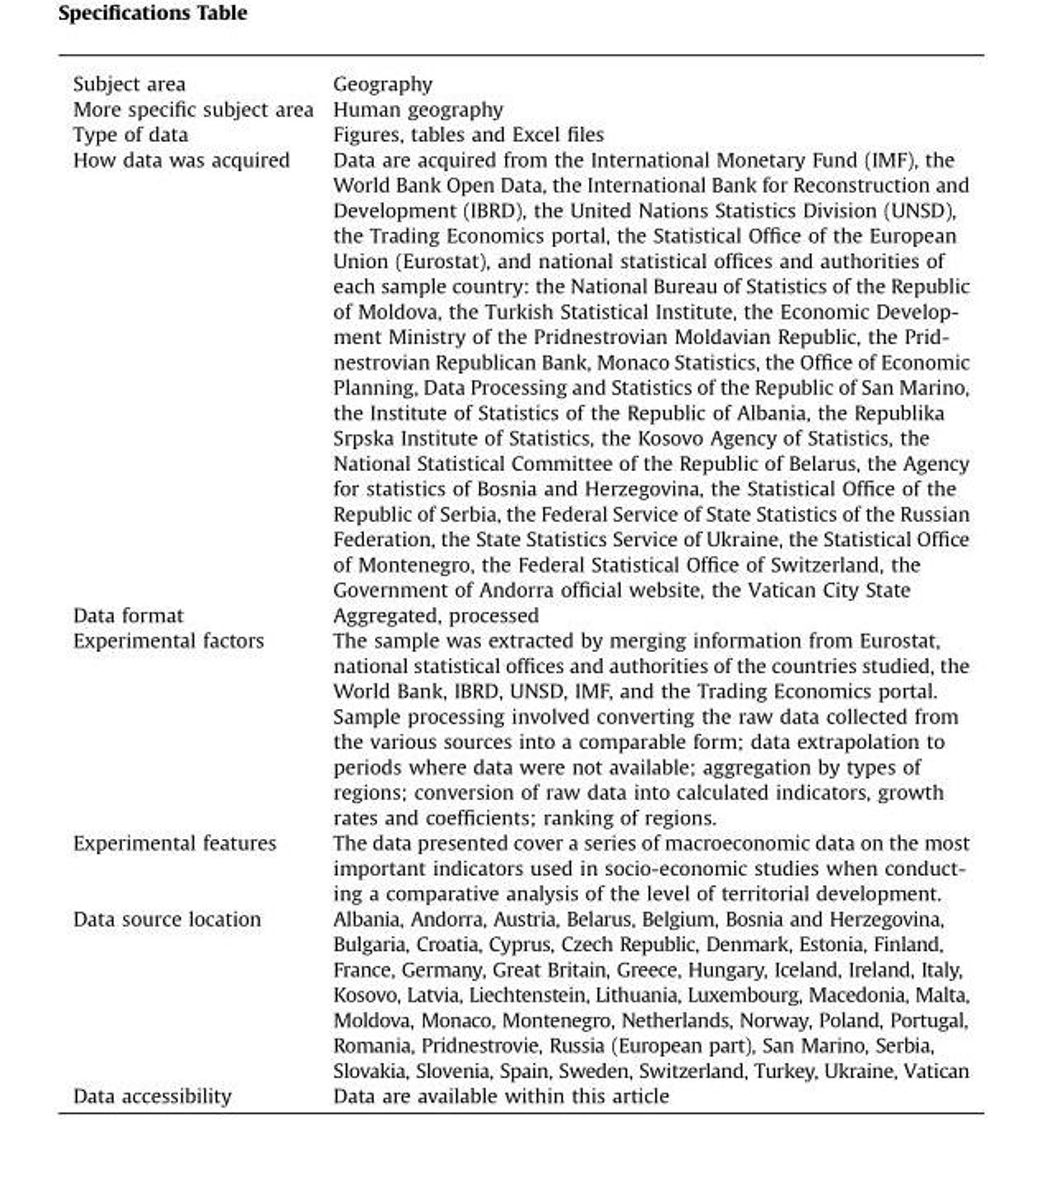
<table><tbody><tr><td>Subject area</td><td>Geography</td></tr><tr><td>More specific subject area</td><td>Human geography</td></tr><tr><td>Type of data</td><td>Figures, tables and Excel files</td></tr><tr><td>How data was acquired</td><td>Data are acquired from the International Monetary Fund (IMF), the World Bank Open Data, the International Bank for Reconstruction and Development (IBRD), the United Nations Statistics Division (UNSD), the Trading Economics portal, the Statistical Office of the European Union (Eurostat), and national statistical offices and authorities of each sample country: the National Bureau of Statistics of the Republic of Moldova, the Turkish Statistical Institute, the Economic Develop- ment Ministry of the Pridnestrovian Moldavian Republic, the Prid- nestrovian Republican Bank, Monaco Statistics, the Office of Economic Planning, Data Processing and Statistics of the Republic of San Marino, the Institute of Statistics of the Republic of Albania, the Republika Srpska Institute of Statistics, the Kosovo Agency of Statistics, the National Statistical Committee of the Republic of Belarus, the Agency for statistics of Bosnia and Herzegovina, the Statistical Office of the Republic of Serbia, the Federal Service of State Statistics of the Russian Federation, the State Statistics Service of Ukraine, the Statistical Office of Montenegro, the Federal Statistical Office of Switzerland, the Government of Andorra official website, the Vatican City State</td></tr><tr><td>Data format</td><td>Aggregated, processed</td></tr><tr><td>Experimental factors</td><td>The sample was extracted by merging information from Eurostat, national statistical offices and authorities of the countries studied, the World Bank, IBRD, UNSD, IMF, and the Trading Economics portal. Sample processing involved converting the raw data collected from the various sources into a comparable form; data extrapolation to periods where data were not available; aggregation by types of regions; conversion of raw data into calculated indicators, growth rates and coefficients; ranking of regions.</td></tr><tr><td>Experimental features</td><td>The data presented cover a series of macroeconomic data on the most important indicators used in socio-economic studies when conduct- ing a comparative analysis of the level of territorial development.</td></tr><tr><td>Data source location</td><td>Albania, Andorra, Austria, Belarus, Belgium, Bosnia and Herzegovina, Bulgaria, Croatia, Cyprus, Czech Republic, Denmark, Estonia, Finland, France, Germany, Great Britain, Greece, Hungary, Iceland, Ireland, Italy, Kosovo, Latvia, Liechtenstein, Lithuania, Luxembourg, Macedonia, Malta, Moldova, Monaco, Montenegro, Netherlands, Norway, Poland, Portugal, Romania, Pridnestrovie, Russia (European part), San Marino, Serbia, Slovakia, Slovenia, Spain, Sweden, Switzerland, Turkey, Ukraine, Vatican</td></tr><tr><td>Data accessibility</td><td>Data are available within this article</td></tr></tbody></table>